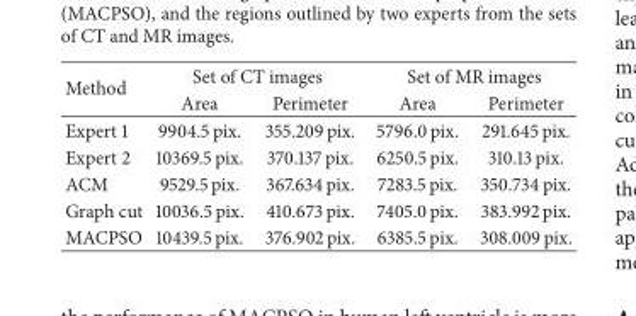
<table><thead><tr><td rowspan="2">Method</td><td colspan="2">Set of CT images</td><td colspan="2">Set of MR images</td></tr><tr><td>Area</td><td>Perimeter</td><td>Area</td><td>Perimeter</td></tr></thead><tbody><tr><td>Expert 1</td><td>9904.5 pix.</td><td>355.209 pix.</td><td>5796.0 pix.</td><td>291.645 pix.</td></tr><tr><td>Expert 2</td><td>10369.5 pix.</td><td>370.137 pix.</td><td>6250.5 pix.</td><td>310.13 pix.</td></tr><tr><td>ACM</td><td>9529.5 pix.</td><td>367.634 pix.</td><td>7283.5 pix.</td><td>350.734 pix.</td></tr><tr><td>Graph cut</td><td>10036.5 pix.</td><td>410.673 pix.</td><td>7405.0 pix.</td><td>383.992 pix.</td></tr><tr><td>MACPSO</td><td>10439.5 pix.</td><td>376.902 pix.</td><td>6385.5 pix.</td><td>308.009 pix.</td></tr></tbody></table>